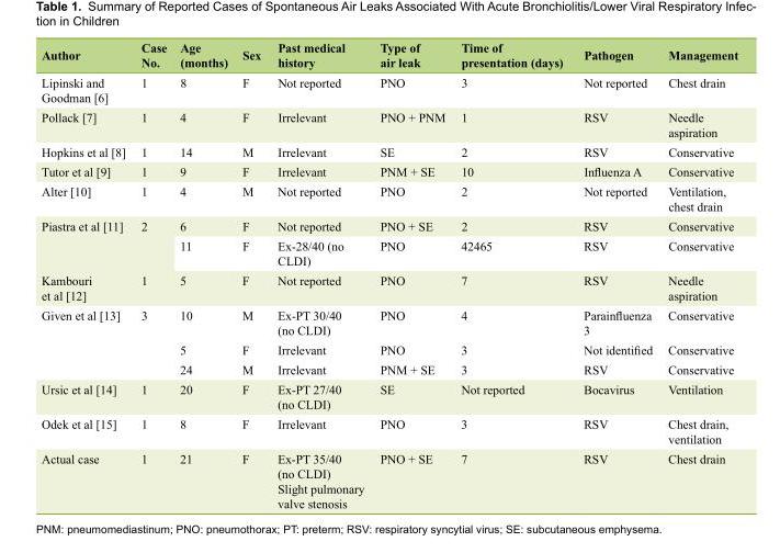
<table><thead><tr><td>Author</td><td>Case No.</td><td>Age (months)</td><td>Sex</td><td>Past medical history</td><td>Type of air leak</td><td>Time of presentation (days)</td><td>Pathogen</td><td>Management</td></tr></thead><tbody><tr><td>Lipinski and Goodman [6]</td><td>1</td><td>8</td><td>F</td><td>Not reported</td><td>PNO</td><td>3</td><td>Not reported</td><td>Chest drain</td></tr><tr><td>Pollack [7]</td><td>1</td><td>4</td><td>F</td><td>Irrelevant</td><td>PNO + PNM</td><td>1</td><td>RSV</td><td>Needle aspiration</td></tr><tr><td>Hopkins et al [8]</td><td>1</td><td>14</td><td>M</td><td>Irrelevant</td><td>SE</td><td>2</td><td>RSV</td><td>Conservative</td></tr><tr><td>Tutor et al [9]</td><td>1</td><td>9</td><td>F</td><td>Irrelevant</td><td>PNM + SE</td><td>10</td><td>Influenza A</td><td>Conservative</td></tr><tr><td>Alter [10]</td><td>1</td><td>4</td><td>M</td><td>Not reported</td><td>PNO</td><td>2</td><td>Not reported</td><td>Ventilation, chest drain</td></tr><tr><td rowspan="2">Piastra et al [11]</td><td rowspan="2">2</td><td>6</td><td>F</td><td>Not reported</td><td>PNO + SE</td><td>2</td><td>RSV</td><td>Conservative</td></tr><tr><td>11</td><td>F</td><td>Ex-28/40 (no CLDI)</td><td>PNO</td><td>42465</td><td>RSV</td><td>Conservative</td></tr><tr><td>Kambouri et al [12]</td><td>1</td><td>5</td><td>F</td><td>Not reported</td><td>PNO</td><td>7</td><td>RSV</td><td>Needle aspiration</td></tr><tr><td rowspan="3">Given et al [13]</td><td rowspan="3">3</td><td>10</td><td>M</td><td>Ex-PT 30/40 (no CLDI)</td><td>PNO</td><td>4</td><td>Parainfluenza 3</td><td>Conservative</td></tr><tr><td>5</td><td>F</td><td>Irrelevant</td><td>PNO</td><td>3</td><td>Not identified</td><td>Conservative</td></tr><tr><td>24</td><td>M</td><td>Irrelevant</td><td>PNM + SE</td><td>3</td><td>RSV</td><td>Conservative</td></tr><tr><td>Ursic et al [14]</td><td>1</td><td>20</td><td>F</td><td>Ex-PT 27/40 (no CLDI)</td><td>SE</td><td>Not reported</td><td>Bocavirus</td><td>Ventilation</td></tr><tr><td>Odek et al [15]</td><td>1</td><td>8</td><td>F</td><td>Irrelevant</td><td>PNO</td><td>3</td><td>RSV</td><td>Chest drain, ventilation</td></tr><tr><td>Actual case</td><td>1</td><td>21</td><td>F</td><td>Ex-PT 35/40 (no CLDI) Slight pulmonary valve stenosis</td><td>PNO + SE</td><td>7</td><td>RSV</td><td>Chest drain</td></tr></tbody></table>